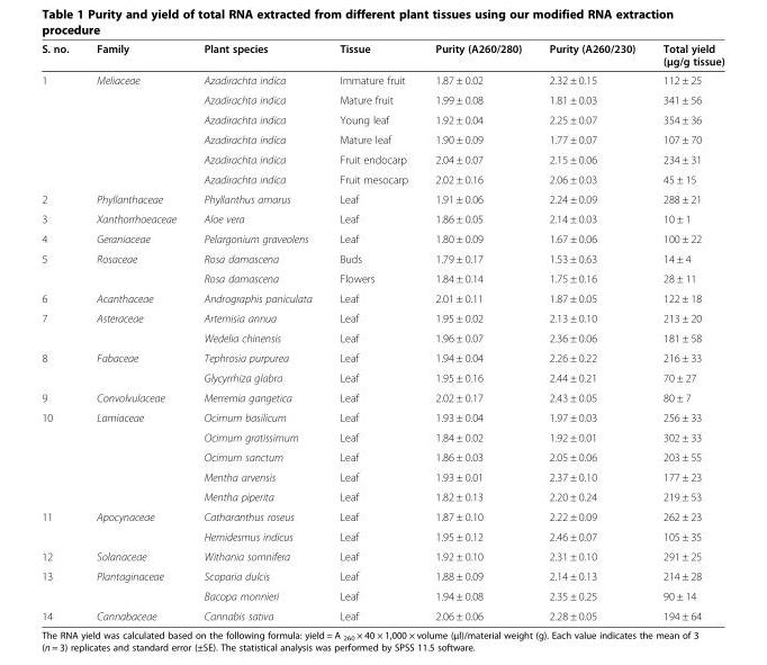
<table><thead><tr><td>S. no.</td><td>Family</td><td>Plant species</td><td>Tissue</td><td>Purity (A260/280)</td><td>Purity (A260/230)</td><td>Total yield (μg/g tissue)</td></tr></thead><tbody><tr><td rowspan="6">1</td><td>Meliaceae</td><td>Azadirachta indica</td><td>Immature fruit</td><td>1.87 ± 0.02</td><td>2.32 ± 0.15</td><td>112 ± 25</td></tr><tr><td></td><td>Azadirachta indica</td><td>Mature fruit</td><td>1.99 ± 0.08</td><td>1.81 ± 0.03</td><td>341 ± 56</td></tr><tr><td></td><td>Azadirachta indica</td><td>Young leaf</td><td>1.92 ± 0.04</td><td>2.25 ± 0.07</td><td>354 ± 36</td></tr><tr><td></td><td>Azadirachta indica</td><td>Mature leaf</td><td>1.90 ± 0.09</td><td>1.77 ± 0.07</td><td>107 ± 70</td></tr><tr><td></td><td>Azadirachta indica</td><td>Fruit endocarp</td><td>2.04 ± 0.07</td><td>2.15 ± 0.06</td><td>234 ± 31</td></tr><tr><td></td><td>Azadirachta indica</td><td>Fruit mesocarp</td><td>2.02 ± 0.16</td><td>2.06 ± 0.03</td><td>45 ± 15</td></tr><tr><td>2</td><td>Phyllanthaceae</td><td>Phyllanthus amarus</td><td>Leaf</td><td>1.91 ± 0.06</td><td>2.24 ± 0.09</td><td>288 ± 21</td></tr><tr><td>3</td><td>Xanthorrhoeaceae</td><td>Aloe vera</td><td>Leaf</td><td>1.86 ± 0.05</td><td>2.14 ± 0.03</td><td>10 ± 1</td></tr><tr><td>4</td><td>Geraniaceae</td><td>Pelargonium graveolens</td><td>Leaf</td><td>1.80 ± 0.09</td><td>1.67 ± 0.06</td><td>100 ± 22</td></tr><tr><td rowspan="2">5</td><td>Rosaceae</td><td>Rosa damascena</td><td>Buds</td><td>1.79 ± 0.17</td><td>1.53 ± 0.63</td><td>14 ± 4</td></tr><tr><td></td><td>Rosa damascena</td><td>Flowers</td><td>1.84 ± 0.14</td><td>1.75 ± 0.16</td><td>28 ± 11</td></tr><tr><td>6</td><td>Acanthaceae</td><td>Andrographis paniculata</td><td>Leaf</td><td>2.01 ± 0.11</td><td>1.87 ± 0.05</td><td>122 ± 18</td></tr><tr><td rowspan="2">7</td><td>Asteraceae</td><td>Artemisia annua</td><td>Leaf</td><td>1.95 ± 0.02</td><td>2.13 ± 0.10</td><td>213 ± 20</td></tr><tr><td></td><td>Wedelia chinensis</td><td>Leaf</td><td>1.96 ± 0.07</td><td>2.36 ± 0.06</td><td>181 ± 58</td></tr><tr><td rowspan="2">8</td><td>Fabaceae</td><td>Tephrosia purpurea</td><td>Leaf</td><td>1.94 ± 0.04</td><td>2.26 ± 0.22</td><td>216 ± 33</td></tr><tr><td></td><td>Glycyrrhiza glabra</td><td>Leaf</td><td>1.95 ± 0.16</td><td>2.44 ± 0.21</td><td>70 ± 27</td></tr><tr><td>9</td><td>Convolvulaceae</td><td>Merremia gangetica</td><td>Leaf</td><td>2.02 ± 0.17</td><td>2.43 ± 0.05</td><td>80 ± 7</td></tr><tr><td rowspan="5">10</td><td>Lamiaceae</td><td>Ocimum basilicum</td><td>Leaf</td><td>1.93 ± 0.04</td><td>1.97 ± 0.03</td><td>256 ± 33</td></tr><tr><td></td><td>Ocimum gratissimum</td><td>Leaf</td><td>1.84 ± 0.02</td><td>1.92 ± 0.01</td><td>302 ± 33</td></tr><tr><td></td><td>Ocimum sanctum</td><td>Leaf</td><td>1.86 ± 0.03</td><td>2.05 ± 0.06</td><td>203 ± 55</td></tr><tr><td></td><td>Mentha arvensis</td><td>Leaf</td><td>1.93 ± 0.01</td><td>2.37 ± 0.10</td><td>177 ± 23</td></tr><tr><td></td><td>Mentha piperita</td><td>Leaf</td><td>1.82 ± 0.13</td><td>2.20 ± 0.24</td><td>219 ± 53</td></tr><tr><td rowspan="2">11</td><td>Apocynaceae</td><td>Catharanthus roseus</td><td>Leaf</td><td>1.87 ± 0.10</td><td>2.22 ± 0.09</td><td>262 ± 23</td></tr><tr><td></td><td>Hemidesmus indicus</td><td>Leaf</td><td>1.95 ± 0.12</td><td>2.46 ± 0.07</td><td>105 ± 35</td></tr><tr><td>12</td><td>Solanaceae</td><td>Withania somnifera</td><td>Leaf</td><td>1.92 ± 0.10</td><td>2.31 ± 0.10</td><td>291 ± 25</td></tr><tr><td rowspan="2">13</td><td>Plantaginaceae</td><td>Scoparia dulcis</td><td>Leaf</td><td>1.88 ± 0.09</td><td>2.14 ± 0.13</td><td>214 ± 28</td></tr><tr><td></td><td>Bacopa monnieri</td><td>Leaf</td><td>1.94 ± 0.08</td><td>2.35 ± 0.25</td><td>90 ± 14</td></tr><tr><td>14</td><td>Cannabaceae</td><td>Cannabis sativa</td><td>Leaf</td><td>2.06 ± 0.06</td><td>2.28 ± 0.05</td><td>194 ± 64</td></tr></tbody></table>